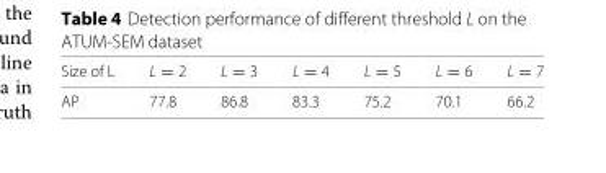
<table><thead><tr><td>Size of L</td><td>L = 2</td><td>L = 3</td><td>L = 4</td><td>L = 5</td><td>L = 6</td><td>L = 7</td></tr></thead><tbody><tr><td>AP</td><td>77.8</td><td>86.8</td><td>83.3</td><td>75.2</td><td>70.1</td><td>66.2</td></tr></tbody></table>